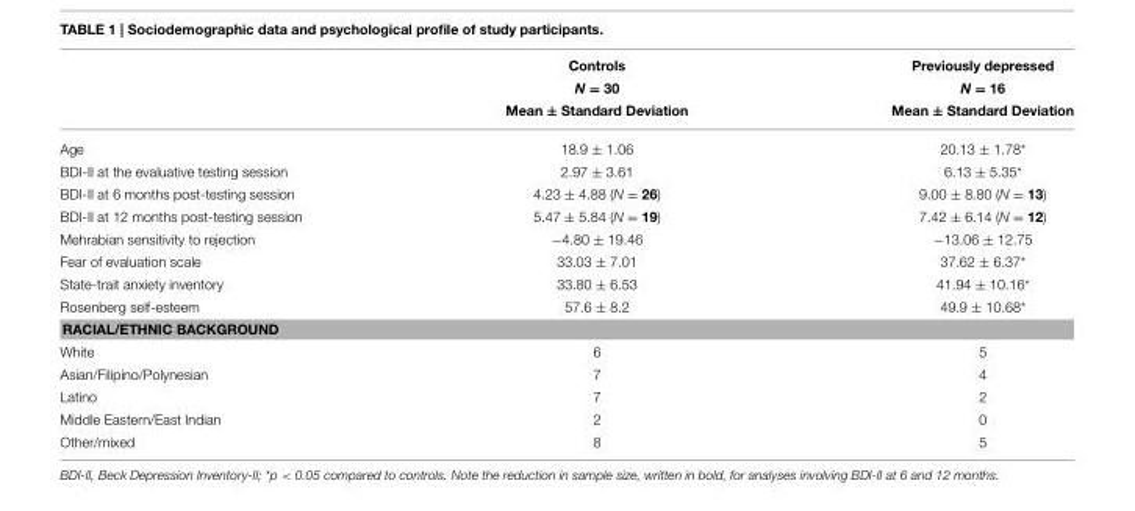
<table><thead><tr><td></td><td>Controls N = 30 Mean ± Standard Deviation</td><td>Previously depressed N = 16 Mean ± Standard Deviation</td></tr></thead><tbody><tr><td>Age</td><td>18.9 ± 1.06</td><td>20.13 ± 1.78*</td></tr><tr><td>BDI-II at the evaluative testing session</td><td>2.97 ± 3.61</td><td>6.13 ± 5.35*</td></tr><tr><td>BDI-II at 6 months post-testing session</td><td>4.23 ± 4.88 (N = 26)</td><td>9.00 ± 8.80 (N = 13)</td></tr><tr><td>BDI-II at 12 months post-testing session</td><td>5.47 ± 5.84 (N = 19)</td><td>7.42 ± 6.14 (N = 12)</td></tr><tr><td>Mehrabian sensitivity to rejection</td><td>−4.80 ± 19.46</td><td>−13.06 ± 12.75</td></tr><tr><td>Fear of evaluation scale</td><td>33.03 ± 7.01</td><td>37.62 ± 6.37*</td></tr><tr><td>State-trait anxiety inventory</td><td>33.80 ± 6.53</td><td>41.94 ± 10.16*</td></tr><tr><td>Rosenberg self-esteem</td><td>57.6 ± 8.2</td><td>49.9 ± 10.68*</td></tr><tr><td colspan="3">RACIAL/ETHNIC BACKGROUND</td></tr><tr><td>White</td><td>6</td><td>5</td></tr><tr><td>Asian/Filipino/Polynesian</td><td>7</td><td>4</td></tr><tr><td>Latino</td><td>7</td><td>2</td></tr><tr><td>Middle Eastern/East Indian</td><td>2</td><td>0</td></tr><tr><td>Other/mixed</td><td>8</td><td>5</td></tr></tbody></table>